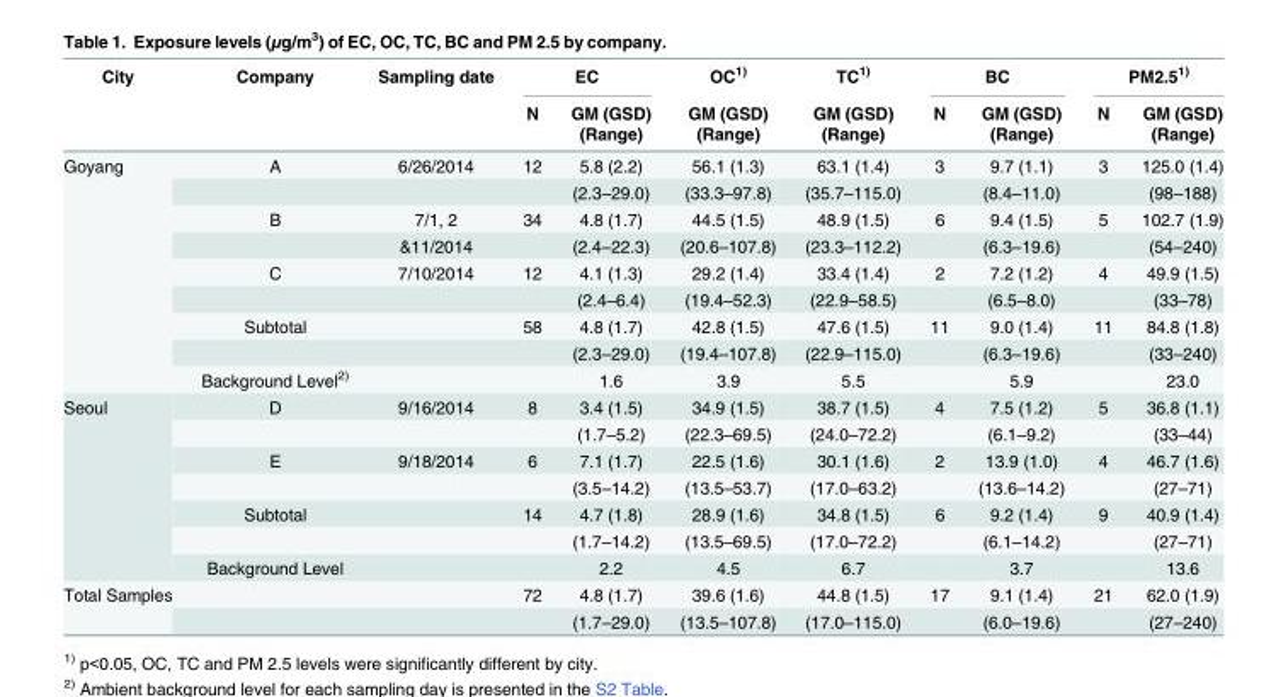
<table><thead><tr><td rowspan="3">City</td><td rowspan="3">Company</td><td rowspan="3">Sampling date</td><td colspan="2">EC</td><td rowspan="3">OC<sup>1)</sup> GM (GSD) (Range)</td><td rowspan="3">TC<sup>1)</sup> GM (GSD) (Range)</td><td colspan="2">BC</td><td colspan="2">PM2.5<sup>1)</sup></td></tr><tr><td rowspan="2">N</td><td rowspan="2">GM (GSD) (Range)</td><td rowspan="2">N</td><td rowspan="2">GM (GSD) (Range)</td><td rowspan="2">N</td><td rowspan="2">GM (GSD) (Range)</td></tr><tr></tr></thead><tbody><tr><td rowspan="9">Goyang</td><td>A</td><td>6/26/2014</td><td>12</td><td>5.8 (2.2)</td><td>56.1 (1.3)</td><td>63.1 (1.4)</td><td>3</td><td>9.7 (1.1)</td><td>3</td><td>125.0 (1.4)</td></tr><tr><td></td><td></td><td></td><td>(2.3–29.0)</td><td>(33.3–97.8)</td><td>(35.7–115.0)</td><td></td><td>(8.4–11.0)</td><td></td><td>(98–188)</td></tr><tr><td>B</td><td>7/1, 2</td><td>34</td><td>4.8 (1.7)</td><td>44.5 (1.5)</td><td>48.9 (1.5)</td><td>6</td><td>9.4 (1.5)</td><td>5</td><td>102.7 (1.9)</td></tr><tr><td></td><td>&amp;11/2014</td><td></td><td>(2.4–22.3)</td><td>(20.6–107.8)</td><td>(23.3–112.2)</td><td></td><td>(6.3–19.6)</td><td></td><td>(54–240)</td></tr><tr><td>C</td><td>7/10/2014</td><td>12</td><td>4.1 (1.3)</td><td>29.2 (1.4)</td><td>33.4 (1.4)</td><td>2</td><td>7.2 (1.2)</td><td>4</td><td>49.9 (1.5)</td></tr><tr><td></td><td></td><td></td><td>(2.4–6.4)</td><td>(19.4–52.3)</td><td>(22.9–58.5)</td><td></td><td>(6.5–8.0)</td><td></td><td>(33–78)</td></tr><tr><td>Subtotal</td><td></td><td>58</td><td>4.8 (1.7)</td><td>42.8 (1.5)</td><td>47.6 (1.5)</td><td>11</td><td>9.0 (1.4)</td><td>11</td><td>84.8 (1.8)</td></tr><tr><td></td><td></td><td></td><td>(2.3–29.0)</td><td>(19.4–107.8)</td><td>(22.9–115.0)</td><td></td><td>(6.3–19.6)</td><td></td><td>(33–240)</td></tr><tr><td>Background Level<sup>2)</sup></td><td></td><td></td><td>1.6</td><td>3.9</td><td>5.5</td><td></td><td>5.9</td><td></td><td>23.0</td></tr><tr><td rowspan="7">Seoul</td><td>D</td><td>9/16/2014</td><td>8</td><td>3.4 (1.5)</td><td>34.9 (1.5)</td><td>38.7 (1.5)</td><td>4</td><td>7.5 (1.2)</td><td>5</td><td>36.8 (1.1)</td></tr><tr><td></td><td></td><td></td><td>(1.7–5.2)</td><td>(22.3–69.5)</td><td>(24.0–72.2)</td><td></td><td>(6.1–9.2)</td><td></td><td>(33–44)</td></tr><tr><td>E</td><td>9/18/2014</td><td>6</td><td>7.1 (1.7)</td><td>22.5 (1.6)</td><td>30.1 (1.6)</td><td>2</td><td>13.9 (1.0)</td><td>4</td><td>46.7 (1.6)</td></tr><tr><td></td><td></td><td></td><td>(3.5–14.2)</td><td>(13.5–53.7)</td><td>(17.0–63.2)</td><td></td><td>(13.6–14.2)</td><td></td><td>(27–71)</td></tr><tr><td>Subtotal</td><td></td><td>14</td><td>4.7 (1.8)</td><td>28.9 (1.6)</td><td>34.8 (1.5)</td><td>6</td><td>9.2 (1.4)</td><td>9</td><td>40.9 (1.4)</td></tr><tr><td></td><td></td><td></td><td>(1.7–14.2)</td><td>(13.5–69.5)</td><td>(17.0–72.2)</td><td></td><td>(6.1–14.2)</td><td></td><td>(27–71)</td></tr><tr><td>Background Level</td><td></td><td></td><td>2.2</td><td>4.5</td><td>6.7</td><td></td><td>3.7</td><td></td><td>13.6</td></tr><tr><td rowspan="2">Total Samples</td><td></td><td></td><td>72</td><td>4.8 (1.7)</td><td>39.6 (1.6)</td><td>44.8 (1.5)</td><td>17</td><td>9.1 (1.4)</td><td>21</td><td>62.0 (1.9)</td></tr><tr><td></td><td></td><td></td><td>(1.7–29.0)</td><td>(13.5–107.8)</td><td>(17.0–115.0)</td><td></td><td>(6.0–19.6)</td><td></td><td>(27–240)</td></tr></tbody></table>